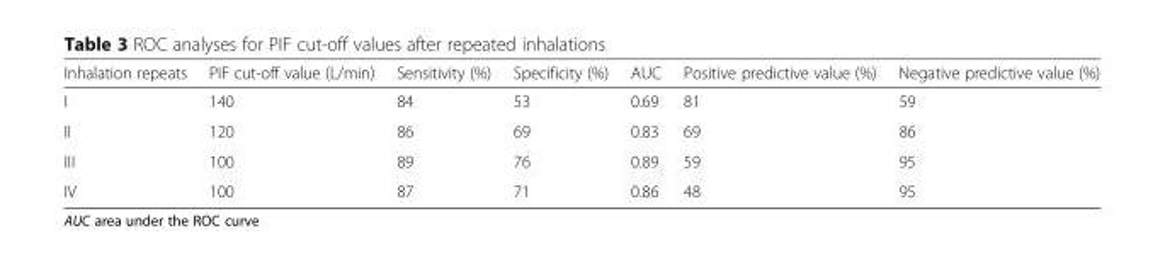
<table><thead><tr><td>Inhalation repeats</td><td>PIF cut-off value (L/min)</td><td>Sensitivity (%)</td><td>Specificity (%)</td><td>AUC</td><td>Positive predictive value (%)</td><td>Negative predictive value (%)</td></tr></thead><tbody><tr><td>I</td><td>140</td><td>84</td><td>53</td><td>0.69</td><td>81</td><td>59</td></tr><tr><td>II</td><td>120</td><td>86</td><td>69</td><td>0.83</td><td>69</td><td>86</td></tr><tr><td>III</td><td>100</td><td>89</td><td>76</td><td>0.89</td><td>59</td><td>95</td></tr><tr><td>IV</td><td>100</td><td>87</td><td>71</td><td>0.86</td><td>48</td><td>95</td></tr></tbody></table>